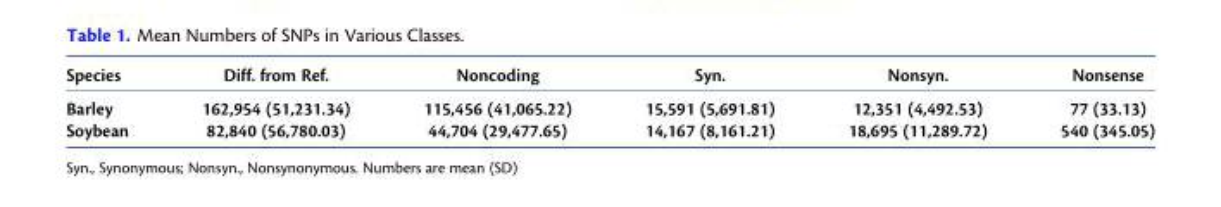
<table><thead><tr><td>Species</td><td>Diff. from Ref.</td><td>Noncoding</td><td>Syn.</td><td>Nonsyn.</td><td>Nonsense</td></tr></thead><tbody><tr><td>Barley</td><td>162,954 (51,231.34)</td><td>115,456 (41,065.22)</td><td>15,591 (5,691.81)</td><td>12,351 (4,492.53)</td><td>77 (33.13)</td></tr><tr><td>Soybean</td><td>82,840 (56,780.03)</td><td>44,704 (29,477.65)</td><td>14,167 (8,161.21)</td><td>18,695 (11,289.72)</td><td>540 (345.05)</td></tr></tbody></table>